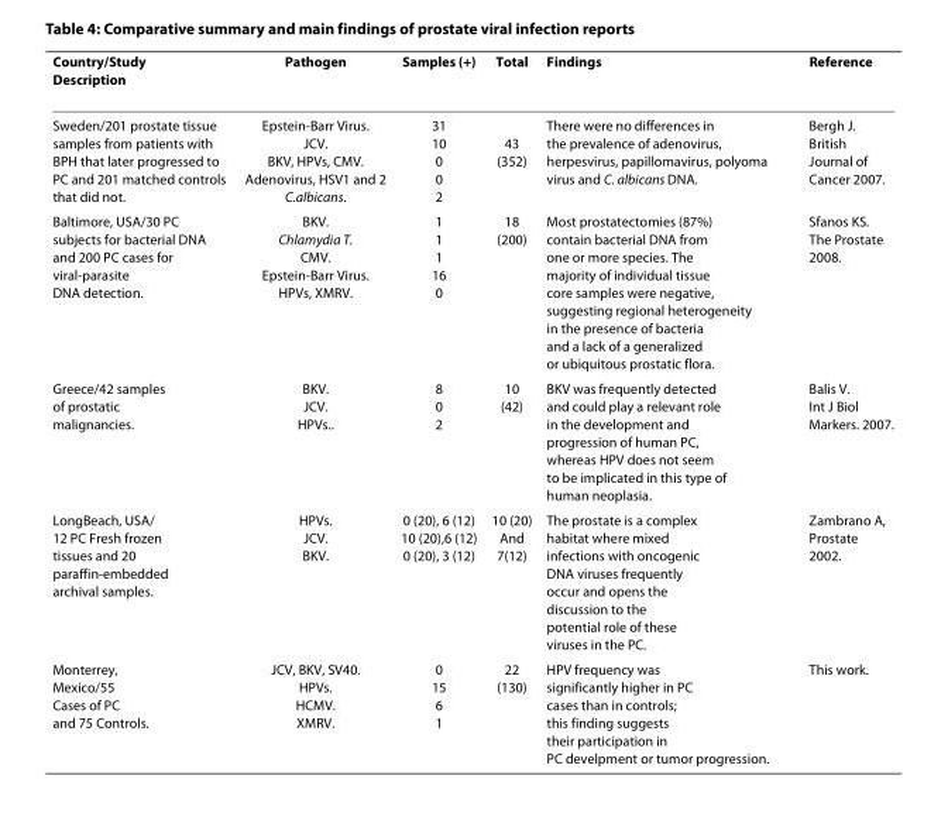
<table><thead><tr><td>Country/Study Description</td><td>Pathogen</td><td>Samples (+)</td><td>Total</td><td>Findings</td><td>Reference</td></tr></thead><tbody><tr><td>Sweden/201 prostate tissue samples from patients with BPH that later progressed to PC and 201 matched controls that did not.</td><td>Epstein-Barr Virus. JCV. BKV, HPVs, CMV. Adenovirus, HSV1 and 2 C.albicans.</td><td>31 10 0 0 2</td><td>43 (352)</td><td>There were no differences in the prevalence of adenovirus, herpesvirus, papillomavirus, polyoma virus and C. albicans DNA.</td><td>Bergh J. British Journal of Cancer 2007.</td></tr><tr><td>Baltimore, USA/30 PC subjects for bacterial DNA and 200 PC cases for viral-parasite DNA detection.</td><td>BKV. Chlamydia T. CMV. Epstein-Barr Virus. HPVs, XMRV.</td><td>1 1 1 16 0</td><td>18 (200)</td><td>Most prostatectomies (87%) contain bacterial DNA from one or more species. The majority of individual tissue core samples were negative, suggesting regional heterogeneity in the presence of bacteria and a lack of a generalized or ubiquitous prostatic flora.</td><td>Sfanos KS. The Prostate 2008.</td></tr><tr><td>Greece/42 samples of prostatic malignancies.</td><td>BKV. JCV. HPVs..</td><td>8 0 2</td><td>10 (42)</td><td>BKV was frequently detected and could play a relevant role in the development and progression of human PC, whereas HPV does not seem to be implicated in this type of human neoplasia.</td><td>Balis V. Int J Biol Markers. 2007.</td></tr><tr><td>LongBeach, USA/ 12 PC Fresh frozen tissues and 20 paraffin-embedded archival samples.</td><td>HPVs. JCV. BKV.</td><td>0 (20), 6 (12) 10 (20),6 (12) 0 (20), 3 (12)</td><td>10 (20) And 7(12)</td><td>The prostate is a complex habitat where mixed infections with oncogenic DNA viruses frequently occur and opens the discussion to the potential role of these viruses in the PC.</td><td>Zambrano A, Prostate 2002.</td></tr><tr><td>Monterrey, Mexico/55 Cases of PC and 75 Controls.</td><td>JCV, BKV, SV40. HPVs. HCMV. XMRV.</td><td>0 15 6 1</td><td>22 (130)</td><td>HPV frequency was significantly higher in PC cases than in controls; this finding suggests their participation in PC develpment or tumor progression.</td><td>This work.</td></tr></tbody></table>